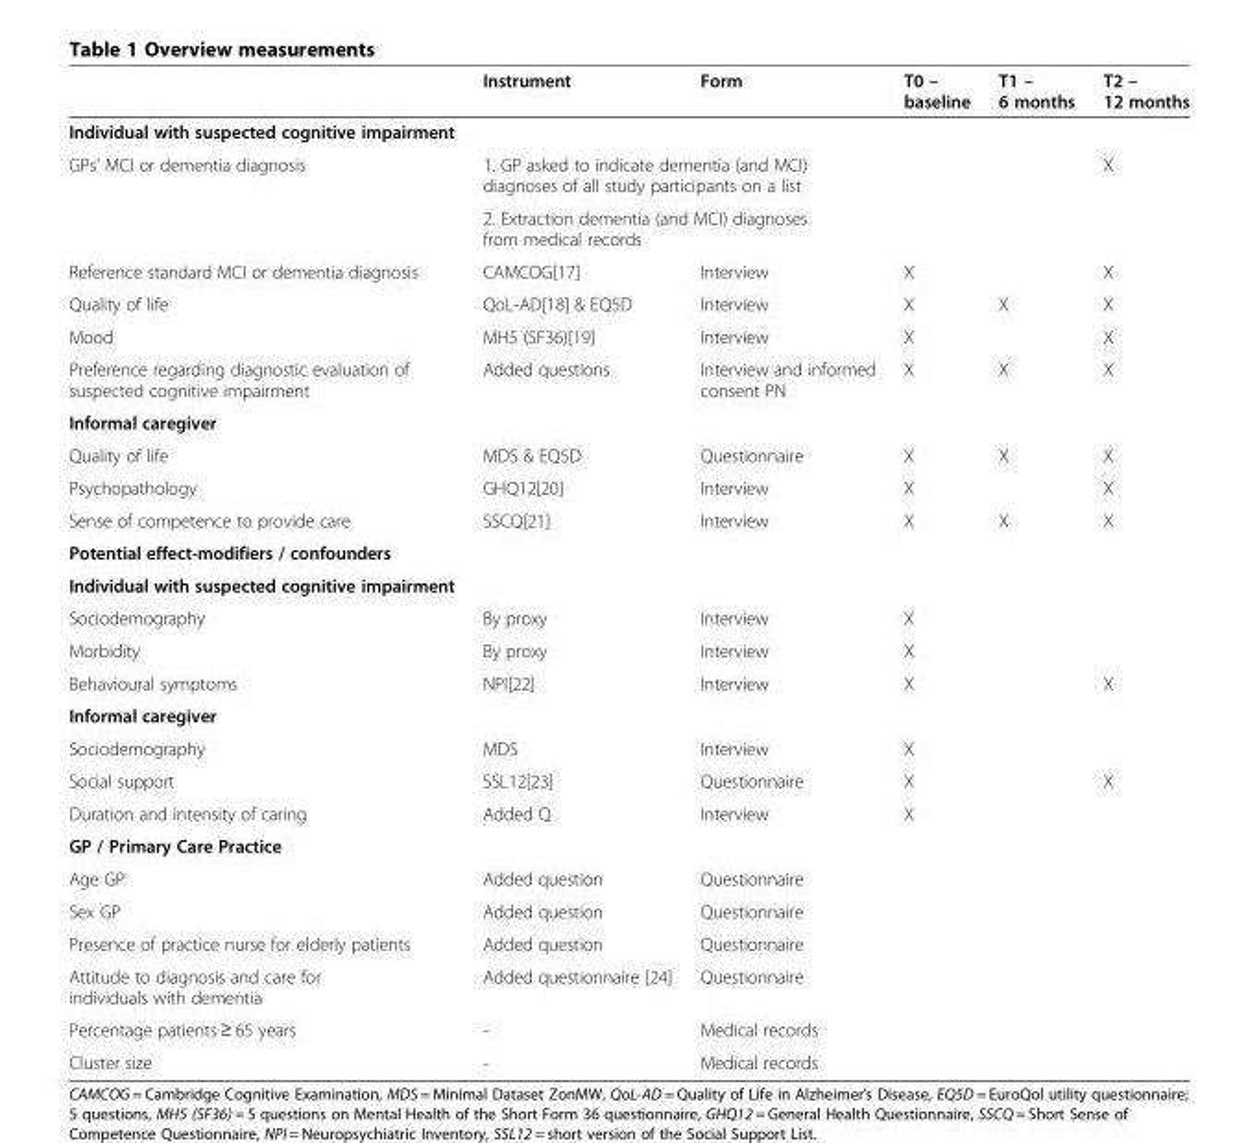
<table><thead><tr><td></td><td>Instrument</td><td>Form</td><td>T0 – baseline</td><td>T1 – 6 months</td><td>T2 – 12 months</td></tr></thead><tbody><tr><td colspan="6">Individual with suspected cognitive impairment</td></tr><tr><td rowspan="2">GPs’ MCI or dementia diagnosis</td><td colspan="2">1. GP asked to indicate dementia (and MCI) diagnoses of all study participants on a list</td><td></td><td></td><td rowspan="2">X</td></tr><tr><td colspan="2">2. Extraction dementia (and MCI) diagnoses from medical records</td><td></td><td></td></tr><tr><td>Reference standard MCI or dementia diagnosis</td><td>CAMCOG[17]</td><td>Interview</td><td>X</td><td></td><td>X</td></tr><tr><td>Quality of life</td><td>QoL-AD[18] &amp; EQ5D</td><td>Interview</td><td>X</td><td>X</td><td>X</td></tr><tr><td>Mood</td><td>MH5 (SF36)[19]</td><td>Interview</td><td>X</td><td></td><td>X</td></tr><tr><td>Preference regarding diagnostic evaluation of suspected cognitive impairment</td><td>Added questions</td><td>Interview and informed consent PN</td><td>X</td><td>X</td><td>X</td></tr><tr><td colspan="6">Informal caregiver</td></tr><tr><td>Quality of life</td><td>MDS &amp; EQ5D</td><td>Questionnaire</td><td>X</td><td>X</td><td>X</td></tr><tr><td>Psychopathology</td><td>GHQ12[20]</td><td>Interview</td><td>X</td><td></td><td>X</td></tr><tr><td>Sense of competence to provide care</td><td>SSCQ[21]</td><td>Interview</td><td>X</td><td>X</td><td>X</td></tr><tr><td colspan="6">Potential effect-modifiers / confounders</td></tr><tr><td colspan="6">Individual with suspected cognitive impairment</td></tr><tr><td>Sociodemography</td><td>By proxy</td><td>Interview</td><td>X</td><td></td><td></td></tr><tr><td>Morbidity</td><td>By proxy</td><td>Interview</td><td>X</td><td></td><td></td></tr><tr><td>Behavioural symptoms</td><td>NPI[22]</td><td>Interview</td><td>X</td><td></td><td>X</td></tr><tr><td colspan="6">Informal caregiver</td></tr><tr><td>Sociodemography</td><td>MDS</td><td>Interview</td><td>X</td><td></td><td></td></tr><tr><td>Social support</td><td>SSL12[23]</td><td>Questionnaire</td><td>X</td><td rowspan="2"></td><td rowspan="2">X</td></tr><tr><td>Duration and intensity of caring</td><td>Added Q</td><td>Interview</td><td>X</td></tr><tr><td colspan="6">GP / Primary Care Practice</td></tr><tr><td>Age GP</td><td>Added question</td><td>Questionnaire</td><td></td><td></td><td></td></tr><tr><td>Sex GP</td><td>Added question</td><td>Questionnaire</td><td></td><td></td><td></td></tr><tr><td>Presence of practice nurse for elderly patients</td><td>Added question</td><td>Questionnaire</td><td></td><td></td><td></td></tr><tr><td>Attitude to diagnosis and care for individuals with dementia</td><td>Added questionnaire [24]</td><td>Questionnaire</td><td></td><td></td><td></td></tr><tr><td>Percentage patients ≥ 65 years</td><td>-</td><td>Medical records</td><td></td><td></td><td></td></tr><tr><td>Cluster size</td><td>-</td><td>Medical records</td><td></td><td></td><td></td></tr></tbody></table>